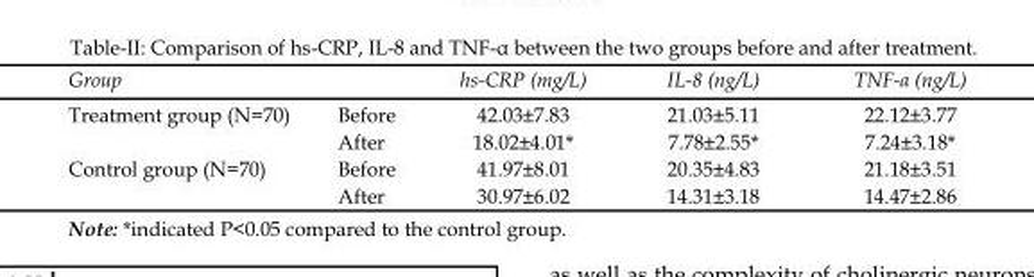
<table><thead><tr><td colspan="2">Group</td><td rowspan="2">hs-CRP (mg/L) 42.03±7.83</td><td rowspan="2">IL-8 (ng/L) 21.03±5.11</td><td rowspan="2">TNF-α (ng/L) 22.12±3.77</td></tr><tr><td>Treatment group (N=70)</td><td>Before</td></tr></thead><tbody><tr><td></td><td>After</td><td>18.02±4.01*</td><td>7.78±2.55*</td><td>7.24±3.18*</td></tr><tr><td rowspan="2">Control group (N=70)</td><td>Before</td><td>41.97±8.01</td><td>20.35±4.83</td><td>21.18±3.51</td></tr><tr><td>After</td><td>30.97±6.02</td><td>14.31±3.18</td><td>14.47±2.86</td></tr></tbody></table>